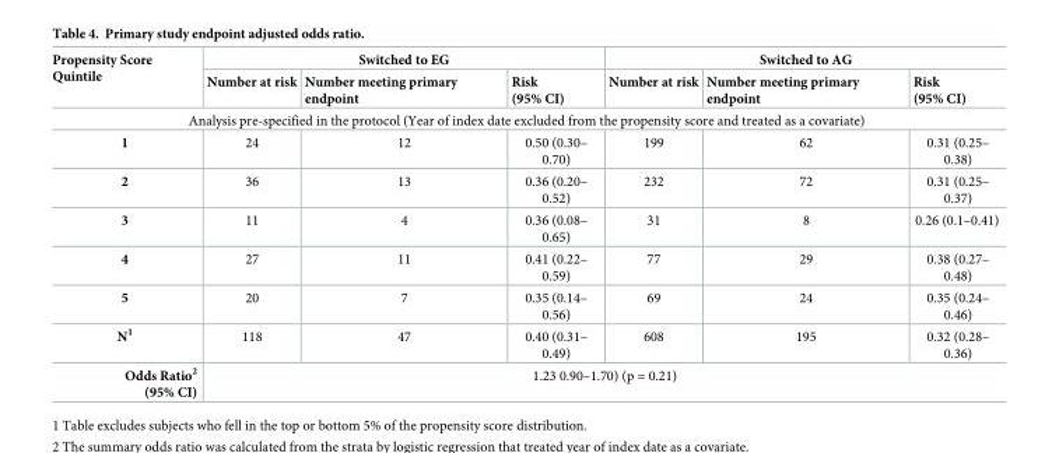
<table><thead><tr><td rowspan="2">Propensity Score Quintile</td><td colspan="3">Switched to EG</td><td colspan="3">Switched to AG</td></tr><tr><td>Number at risk</td><td>Number meeting primary endpoint</td><td>Risk (95% CI)</td><td>Number at risk</td><td>Number meeting primary endpoint</td><td>Risk (95% CI)</td></tr></thead><tbody><tr><td colspan="7">Analysis pre-specified in the protocol (Year of index date excluded from the propensity score and treated as a covariate)</td></tr><tr><td>1</td><td>24</td><td>12</td><td>0.50 (0.30– 0.70)</td><td>199</td><td>62</td><td>0.31 (0.25– 0.38)</td></tr><tr><td>2</td><td>36</td><td>13</td><td>0.36 (0.20– 0.52)</td><td>232</td><td>72</td><td>0.31 (0.25– 0.37)</td></tr><tr><td>3</td><td>11</td><td>4</td><td>0.36 (0.08– 0.65)</td><td>31</td><td>8</td><td>0.26 (0.1–0.41)</td></tr><tr><td>4</td><td>27</td><td>11</td><td>0.41 (0.22– 0.59)</td><td>77</td><td>29</td><td>0.38 (0.27– 0.48)</td></tr><tr><td>5</td><td>20</td><td>7</td><td>0.35 (0.14– 0.56)</td><td>69</td><td>24</td><td>0.35 (0.24– 0.46)</td></tr><tr><td>N<sup>1</sup></td><td>118</td><td>47</td><td>0.40 (0.31– 0.49)</td><td>608</td><td>195</td><td>0.32 (0.28– 0.36)</td></tr><tr><td>Odds Ratio<sup>2</sup> (95% CI)</td><td colspan="6">1.23 0.90–1.70) (p = 0.21)</td></tr></tbody></table>